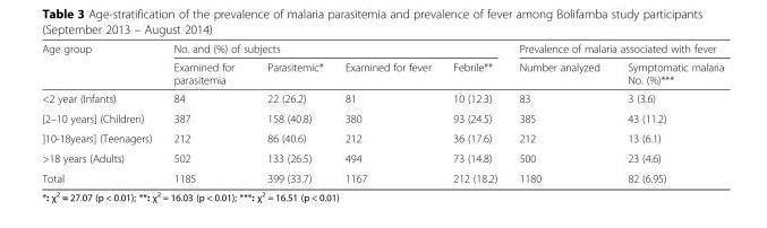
<table><thead><tr><td rowspan="2">Age group</td><td colspan="4">No. and (%) of subjects</td><td colspan="2">Prevalence of malaria associated with fever</td></tr><tr><td>Examined for parasitemia</td><td>Parasitemic*</td><td>Examined for fever</td><td>Febrile**</td><td>Number analyzed</td><td>Symptomatic malaria No. (%)***</td></tr></thead><tbody><tr><td>&lt;2 year (Infants)</td><td>84</td><td>22 (26.2)</td><td>81</td><td>10 (12.3)</td><td>83</td><td>3 (3.6)</td></tr><tr><td>[2–10 years] (Children)</td><td>387</td><td>158 (40.8)</td><td>380</td><td>93 (24.5)</td><td>385</td><td>43 (11.2)</td></tr><tr><td>]10-18years] (Teenagers)</td><td>212</td><td>86 (40.6)</td><td>212</td><td>36 (17.6)</td><td>212</td><td>13 (6.1)</td></tr><tr><td>&gt;18 years (Adults)</td><td>502</td><td>133 (26.5)</td><td>494</td><td>73 (14.8)</td><td>500</td><td>23 (4.6)</td></tr><tr><td>Total</td><td>1185</td><td>399 (33.7)</td><td>1167</td><td>212 (18.2)</td><td>1180</td><td>82 (6.95)</td></tr></tbody></table>